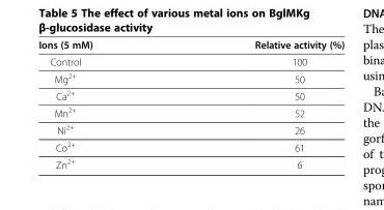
<table><thead><tr><td>Ions (5 mM)</td><td>Relative activity (%)</td></tr></thead><tbody><tr><td>Control</td><td>100</td></tr><tr><td>Mg<sup>2+</sup></td><td>50</td></tr><tr><td>Ca<sup>2+</sup></td><td>50</td></tr><tr><td>Mn<sup>2+</sup></td><td>52</td></tr><tr><td>Ni<sup>2+</sup></td><td>26</td></tr><tr><td>Co<sup>2+</sup></td><td>61</td></tr><tr><td>Zn<sup>2+</sup></td><td>6</td></tr></tbody></table>